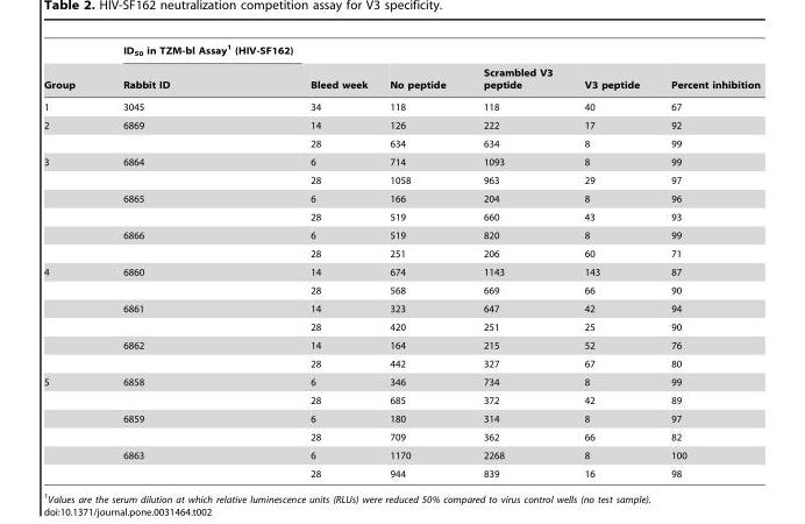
<table><thead><tr><td rowspan="2">Group</td><td rowspan="2">ID<sub>50</sub> in TZM-bl Assay<sup>1</sup> (HIV-SF162) Rabbit ID</td><td rowspan="2">Bleed week</td><td rowspan="2">No peptide</td><td rowspan="2">Scrambled V3 peptide</td><td rowspan="2">V3 peptide</td><td rowspan="2">Percent inhibition</td></tr><tr></tr></thead><tbody><tr><td>1</td><td>3045</td><td>34</td><td>118</td><td>118</td><td>40</td><td>67</td></tr><tr><td rowspan="2">2</td><td>6869</td><td>14</td><td>126</td><td>222</td><td>17</td><td>92</td></tr><tr><td></td><td>28</td><td>634</td><td>634</td><td>8</td><td>99</td></tr><tr><td rowspan="6">3</td><td>6864</td><td>6</td><td>714</td><td>1093</td><td>8</td><td>99</td></tr><tr><td></td><td>28</td><td>1058</td><td>963</td><td>29</td><td>97</td></tr><tr><td>6865</td><td>6</td><td>166</td><td>204</td><td>8</td><td>96</td></tr><tr><td></td><td>28</td><td>519</td><td>660</td><td>43</td><td>93</td></tr><tr><td>6866</td><td>6</td><td>519</td><td>820</td><td>8</td><td>99</td></tr><tr><td></td><td>28</td><td>251</td><td>206</td><td>60</td><td>71</td></tr><tr><td rowspan="6">4</td><td>6860</td><td>14</td><td>674</td><td>1143</td><td>143</td><td>87</td></tr><tr><td></td><td>28</td><td>568</td><td>669</td><td>66</td><td>90</td></tr><tr><td>6861</td><td>14</td><td>323</td><td>647</td><td>42</td><td>94</td></tr><tr><td></td><td>28</td><td>420</td><td>251</td><td>25</td><td>90</td></tr><tr><td>6862</td><td>14</td><td>164</td><td>215</td><td>52</td><td>76</td></tr><tr><td></td><td>28</td><td>442</td><td>327</td><td>67</td><td>80</td></tr><tr><td rowspan="6">5</td><td>6858</td><td>6</td><td>346</td><td>734</td><td>8</td><td>99</td></tr><tr><td></td><td>28</td><td>685</td><td>372</td><td>42</td><td>89</td></tr><tr><td>6859</td><td>6</td><td>180</td><td>314</td><td>8</td><td>97</td></tr><tr><td></td><td>28</td><td>709</td><td>362</td><td>66</td><td>82</td></tr><tr><td>6863</td><td>6</td><td>1170</td><td>2268</td><td>8</td><td>100</td></tr><tr><td></td><td>28</td><td>944</td><td>839</td><td>16</td><td>98</td></tr></tbody></table>